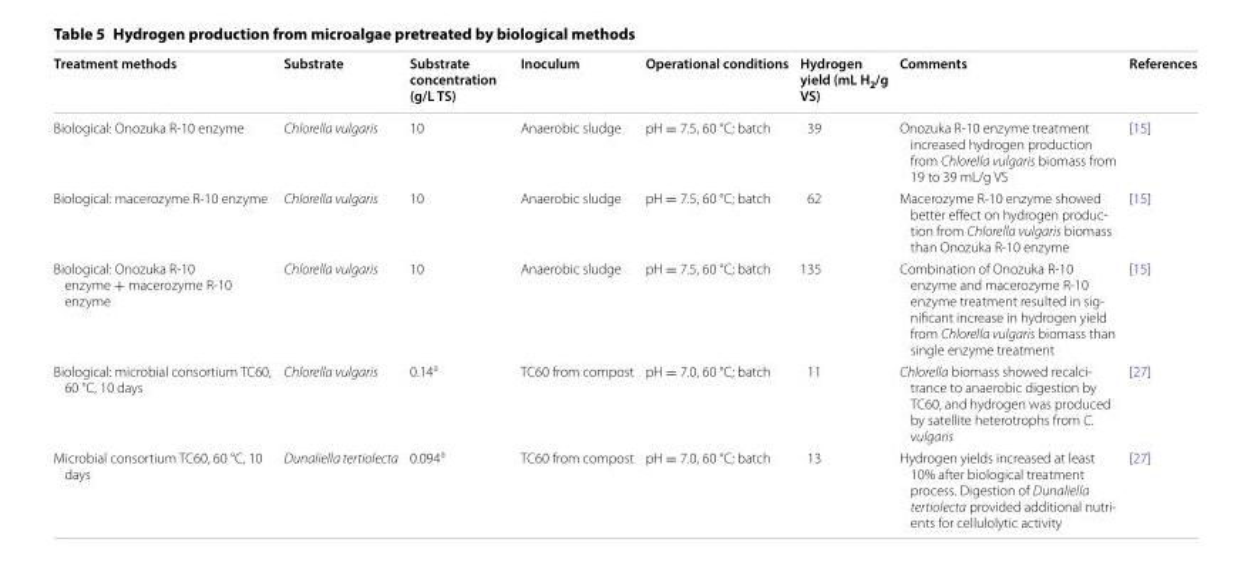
<table><thead><tr><td>Treatment methods</td><td>Substrate</td><td>Substrate concentration (g/L TS)</td><td>Inoculum</td><td>Operational conditions</td><td>Hydrogen yield (mL H<sub>2</sub>/g VS)</td><td>Comments</td><td>References</td></tr></thead><tbody><tr><td>Biological: Onozuka R-10 enzyme</td><td>Chlorella vulgaris</td><td>10</td><td>Anaerobic sludge</td><td>pH = 7.5, 60 °C; batch</td><td>39</td><td>Onozuka R-10 enzyme treatment increased hydrogen production from Chlorella vulgaris biomass from 19 to 39 mL/g VS</td><td>[15]</td></tr><tr><td>Biological: macerozyme R-10 enzyme</td><td>Chlorella vulgaris</td><td>10</td><td>Anaerobic sludge</td><td>pH = 7.5, 60 °C; batch</td><td>62</td><td>Macerozyme R-10 enzyme showed better effect on hydrogen produc- tion from Chlorella vulgaris biomass than Onozuka R-10 enzyme</td><td>[15]</td></tr><tr><td>Biological: Onozuka R-10 enzyme + macerozyme R-10 enzyme</td><td>Chlorella vulgaris</td><td>10</td><td>Anaerobic sludge</td><td>pH = 7.5, 60 °C; batch</td><td>135</td><td>Combination of Onozuka R-10 enzyme and macerozyme R-10 enzyme treatment resulted in sig- nificant increase in hydrogen yield from Chlorella vulgaris biomass than single enzyme treatment</td><td>[15]</td></tr><tr><td>Biological: microbial consortium TC60, 60 °C, 10 days</td><td>Chlorella vulgaris</td><td>0.14<sup>a</sup></td><td>TC60 from compost</td><td>pH = 7.0, 60 °C; batch</td><td>11</td><td>Chlorella biomass showed recalci- trance to anaerobic digestion by TC60, and hydrogen was produced by satellite heterotrophs from C. vulgaris</td><td>[27]</td></tr><tr><td>Microbial consortium TC60, 60 °C, 10 days</td><td>Dunaliella tertiolecta</td><td>0.094<sup>a</sup></td><td>TC60 from compost</td><td>pH = 7.0, 60 °C; batch</td><td>13</td><td>Hydrogen yields increased at least 10% after biological treatment process. Digestion of Dunaliella tertiolecta provided additional nutri- ents for cellulolytic activity</td><td>[27]</td></tr></tbody></table>